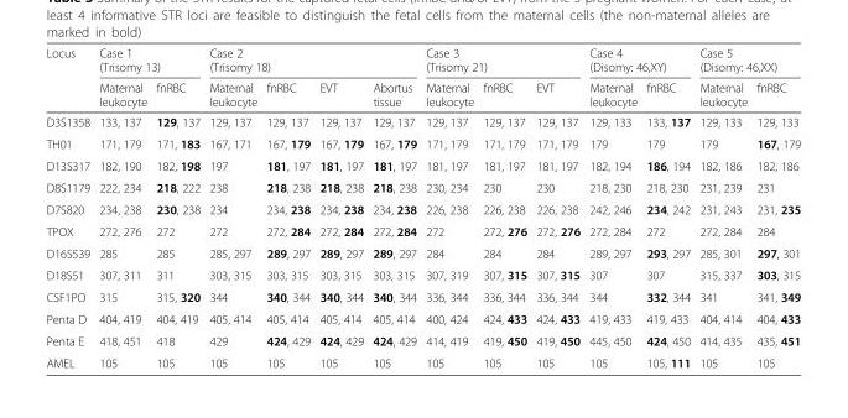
<table><thead><tr><td rowspan="2">Locus</td><td colspan="2">Case 1 (Trisomy 13)</td><td colspan="4">Case 2 (Trisomy 18)</td><td colspan="3">Case 3 (Trisomy 21)</td><td colspan="2">Case 4 (Disomy: 46,XY)</td><td colspan="2">Case 5 (Disomy: 46,XX)</td></tr><tr><td>Maternal leukocyte</td><td>fnRBC</td><td>Maternal leukocyte</td><td>fnRBC</td><td>EVT</td><td>Abortus tissue</td><td>Maternal leukocyte</td><td>fnRBC</td><td>EVT</td><td>Maternal leukocyte</td><td>fnRBC</td><td>Maternal leukocyte</td><td>fnRBC</td></tr></thead><tbody><tr><td>D3S1358</td><td>133, 137</td><td>129, 137</td><td>129, 137</td><td>129, 137</td><td>129, 137</td><td>129, 137</td><td>129, 137</td><td>129, 137</td><td>129, 137</td><td>129, 133</td><td>133, 137</td><td>129, 133</td><td>129, 133</td></tr><tr><td>TH01</td><td>171, 179</td><td>171, 183</td><td>167, 171</td><td>167, 179</td><td>167, 179</td><td>167, 179</td><td>171, 179</td><td>171, 179</td><td>171, 179</td><td>179</td><td>179</td><td>179</td><td>167, 179</td></tr><tr><td>D13S317</td><td>182, 190</td><td>182, 198</td><td>197</td><td>181, 197</td><td>181, 197</td><td>181, 197</td><td>181, 197</td><td>181, 197</td><td>181, 197</td><td>182, 194</td><td>186, 194</td><td>182, 186</td><td>182, 186</td></tr><tr><td>D8S1179</td><td>222, 234</td><td>218, 222</td><td>238</td><td>218, 238</td><td>218, 238</td><td>218, 238</td><td>230, 234</td><td>230</td><td>230</td><td>218, 230</td><td>218, 230</td><td>231, 239</td><td>231</td></tr><tr><td>D7S820</td><td>234, 238</td><td>230, 238</td><td>234</td><td>234, 238</td><td>234, 238</td><td>234, 238</td><td>226, 238</td><td>226, 238</td><td>226, 238</td><td>242, 246</td><td>234, 242</td><td>231, 243</td><td>231, 235</td></tr><tr><td>TPOX</td><td>272, 276</td><td>272</td><td>272</td><td>272, 284</td><td>272, 284</td><td>272, 284</td><td>272</td><td>272, 276</td><td>272, 276</td><td>272, 284</td><td>272</td><td>272, 284</td><td>284</td></tr><tr><td>D16S539</td><td>285</td><td>285</td><td>285, 297</td><td>289, 297</td><td>289, 297</td><td>289, 297</td><td>284</td><td>284</td><td>284</td><td>289, 297</td><td>293, 297</td><td>285, 301</td><td>297, 301</td></tr><tr><td>D18S51</td><td>307, 311</td><td>311</td><td>303, 315</td><td>303, 315</td><td>303, 315</td><td>303, 315</td><td>307, 319</td><td>307, 315</td><td>307, 315</td><td>307</td><td>307</td><td>315, 337</td><td>303, 315</td></tr><tr><td>CSF1PO</td><td>315</td><td>315, 320</td><td>344</td><td>340, 344</td><td>340, 344</td><td>340, 344</td><td>336, 344</td><td>336, 344</td><td>336, 344</td><td>344</td><td>332, 344</td><td>341</td><td>341, 349</td></tr><tr><td>Penta D</td><td>404, 419</td><td>404, 419</td><td>405, 414</td><td>405, 414</td><td>405, 414</td><td>405, 414</td><td>400, 424</td><td>424, 433</td><td>424, 433</td><td>419, 433</td><td>419, 433</td><td>404, 414</td><td>404, 433</td></tr><tr><td>Penta E</td><td>418, 451</td><td>418</td><td>429</td><td>424, 429</td><td>424, 429</td><td>424, 429</td><td>414, 419</td><td>419, 450</td><td>419, 450</td><td>445, 450</td><td>424, 450</td><td>414, 435</td><td>435, 451</td></tr><tr><td>AMEL</td><td>105</td><td>105</td><td>105</td><td>105</td><td>105</td><td>105</td><td>105</td><td>105</td><td>105</td><td>105</td><td>105, 111</td><td>105</td><td>105</td></tr></tbody></table>